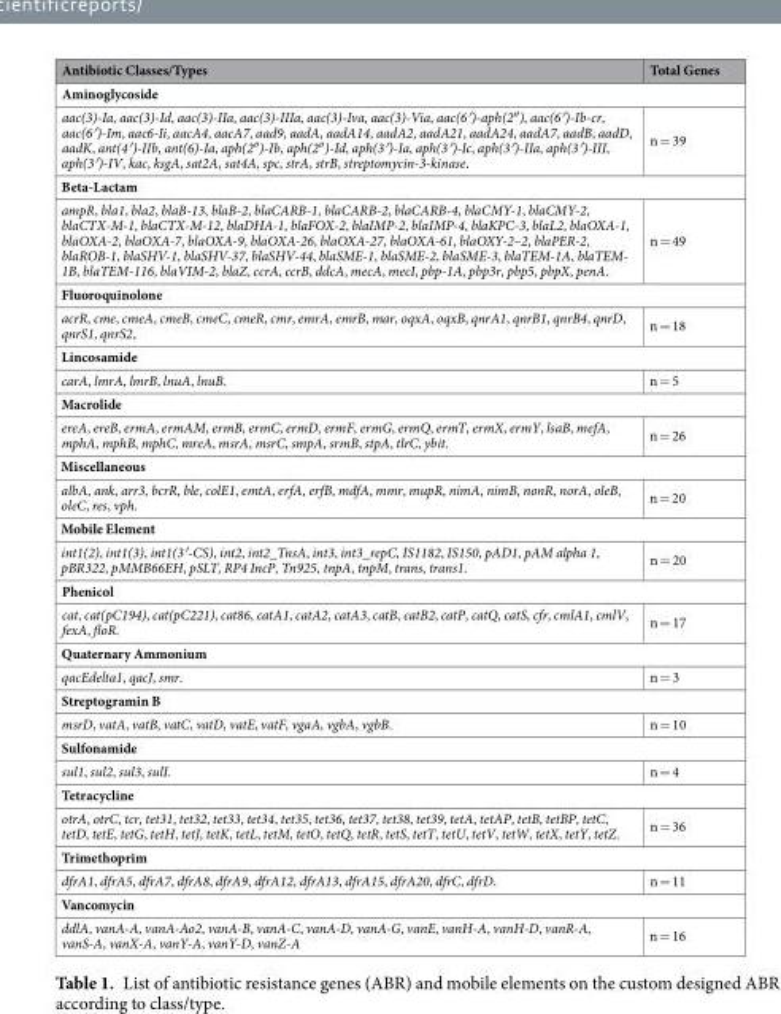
<table><thead><tr><td>Antibiotic Classes/Types</td><td>Total Genes</td></tr></thead><tbody><tr><td colspan="2">Aminoglycoside</td></tr><tr><td>aac(3)-Ia, aac(3)-Id, aac(3)-IIa, aac(3)-IIIa, aac(3)-Iva, aac(3)-Via, aac(6′)-aph(2″), aac(6′)-Ib-cr, aac(6′)-Im, aac6-Ii, aacA4, aacA7, aad9, aadA, aadA14, aadA2, aadA21, aadA24, aadA7, aadB, aadD, aadK, ant(4′)-IIb, ant(6)-Ia, aph(2″)-Ib, aph(2″)-Id, aph(3′)-Ia, aph(3′)-Ic, aph(3′)-IIa, aph(3′)-III, aph(3′)-IV, kac, ksgA, sat2A, sat4A, spc, strA, strB, streptomycin-3-kinase.</td><td>n = 39</td></tr><tr><td colspan="2">Beta-Lactam</td></tr><tr><td>ampR, bla1, bla2, blaB-13, blaB-2, blaCARB-1, blaCARB-2, blaCARB-4, blaCMY-1, blaCMY-2, blaCTX-M-1, blaCTX-M-12, blaDHA-1, blaFOX-2, blaIMP-2, blaIMP-4, blaKPC-3, blaL2, blaOXA-1, blaOXA-2, blaOXA-7, blaOXA-9, blaOXA-26, blaOXA-27, blaOXA-61, blaOXY-2–2, blaPER-2, blaROB-1, blaSHV-1, blaSHV-37, blaSHV-44, blaSME-1, blaSME-2, blaSME-3, blaTEM-1A, blaTEM- 1B, blaTEM-116, blaVIM-2, blaZ, ccrA, ccrB, ddcA, mecA, mecI, pbp-1A, pbp3r, pbp5, pbpX, penA.</td><td>n = 49</td></tr><tr><td colspan="2">Fluoroquinolone</td></tr><tr><td>acrR, cme, cmeA, cmeB, cmeC, cmeR, cmr, emrA, emrB, mar, oqxA, oqxB, qnrA1, qnrB1, qnrB4, qnrD, qnrS1, qnrS2,</td><td>n = 18</td></tr><tr><td colspan="2">Lincosamide</td></tr><tr><td>carA, lmrA, lmrB, lnuA, lnuB.</td><td>n = 5</td></tr><tr><td colspan="2">Macrolide</td></tr><tr><td>ereA, ereB, ermA, ermAM, ermB, ermC, ermD, ermF, ermG, ermQ, ermT, ermX, ermY, lsaB, mefA, mphA, mphB, mphC, mreA, msrA, msrC, smpA, srmB, stpA, tlrC, ybit.</td><td>n = 26</td></tr><tr><td colspan="2">Miscellaneous</td></tr><tr><td>albA, ank, arr3, bcrR, ble, colE1, emtA, erfA, erfB, mdfA, mmr, mupR, nimA, nimB, nonR, norA, oleB, oleC, res, vph.</td><td>n = 20</td></tr><tr><td colspan="2">Mobile Element</td></tr><tr><td>int1(2), int1(3), int1(3′-CS), int2, int2_TnsA, int3, int3_repC, IS1182, IS150, pAD1, pAM alpha 1, pBR322, pMMB66EH, pSLT, RP4 IncP, Tn925, tnpA, tnpM, trans, trans1.</td><td>n = 20</td></tr><tr><td colspan="2">Phenicol</td></tr><tr><td>cat, cat(pC194), cat(pC221), cat86, catA1, catA2, catA3, catB, catB2, catP, catQ, catS, cfr, cmlA1, cmlV, fexA, floR.</td><td>n = 17</td></tr><tr><td colspan="2">Quaternary Ammonium</td></tr><tr><td>qacEdelta1, qacJ, smr.</td><td>n = 3</td></tr><tr><td colspan="2">Streptogramin B</td></tr><tr><td>msrD, vatA, vatB, vatC, vatD, vatE, vatF, vgaA, vgbA, vgbB.</td><td>n = 10</td></tr><tr><td colspan="2">Sulfonamide</td></tr><tr><td>sul1, sul2, sul3, sulI.</td><td>n = 4</td></tr><tr><td colspan="2">Tetracycline</td></tr><tr><td>otrA, otrC, tcr, tet31, tet32, tet33, tet34, tet35, tet36, tet37, tet38, tet39, tetA, tetAP, tetB, tetBP, tetC, tetD, tetE, tetG, tetH, tetJ, tetK, tetL, tetM, tetO, tetQ, tetR, tetS, tetT, tetU, tetV, tetW, tetX, tetY, tetZ.</td><td>n = 36</td></tr><tr><td colspan="2">Trimethoprim</td></tr><tr><td>dfrA1, dfrA5, dfrA7, dfrA8, dfrA9, dfrA12, dfrA13, dfrA15, dfrA20, dfrC, dfrD.</td><td>n = 11</td></tr><tr><td colspan="2">Vancomycin</td></tr><tr><td>ddlA, vanA-A, vanA-Ao2, vanA-B, vanA-C, vanA-D, vanA-G, vanE, vanH-A, vanH-D, vanR-A, vanS-A, vanX-A, vanY-A, vanY-D, vanZ-A</td><td>n = 16</td></tr></tbody></table>